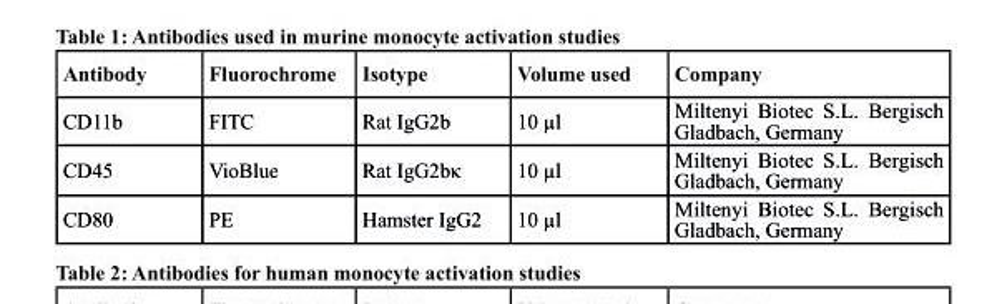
<table><thead><tr><td>Antibody</td><td>Fluorochrome</td><td>Isotype</td><td>Volume used</td><td>company</td></tr></thead><tbody><tr><td>CD11b</td><td>FITC</td><td>Rat IgG2b</td><td>10 µl</td><td>Miltenyi Biotec S.L. Bergisch Gladbach, Germany</td></tr><tr><td>CD45</td><td>VioBlue</td><td>Rat IgG2bκ</td><td>10 µl</td><td>Miltenyi Biotec S.L. Bergisch Gladbach, Germany</td></tr><tr><td>CD80</td><td>PE</td><td>Hamster IgG2</td><td>10 µl</td><td>Miltenyi Biotec S.L. Bergisch Gladbach, Germany</td></tr></tbody></table>